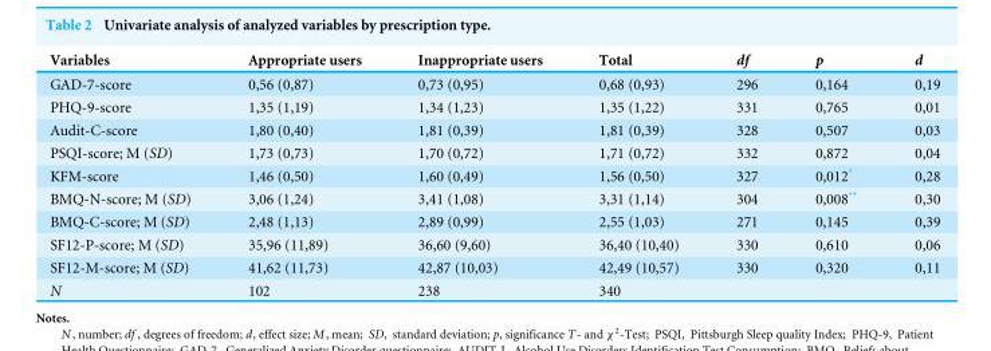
<table><thead><tr><td>Variables</td><td>Appropriate users</td><td>Inappropriate users</td><td>Total</td><td>df</td><td>p</td><td>d</td></tr></thead><tbody><tr><td>GAD-7-score</td><td>0,56 (0,87)</td><td>0,73 (0,95)</td><td>0,68 (0,93)</td><td>296</td><td>0,164</td><td>0,19</td></tr><tr><td>PHQ-9-score</td><td>1,35 (1,19)</td><td>1,34 (1,23)</td><td>1,35 (1,22)</td><td>331</td><td>0,765</td><td>0,01</td></tr><tr><td>Audit-C-score</td><td>1,80 (0,40)</td><td>1,81 (0,39)</td><td>1,81 (0,39)</td><td>328</td><td>0,507</td><td>0,03</td></tr><tr><td>PSQI-score; M (SD)</td><td>1,73 (0,73)</td><td>1,70 (0,72)</td><td>1,71 (0,72)</td><td>332</td><td>0,872</td><td>0,04</td></tr><tr><td>KFM-score</td><td>1,46 (0,50)</td><td>1,60 (0,49)</td><td>1,56 (0,50)</td><td>327</td><td>0,012*</td><td>0,28</td></tr><tr><td>BMQ-N-score; M (SD)</td><td>3,06 (1,24)</td><td>3,41 (1,08)</td><td>3,31 (1,14)</td><td>304</td><td>0,008**</td><td>0,30</td></tr><tr><td>BMQ-C-score; M (SD)</td><td>2,48 (1,13)</td><td>2,89 (0,99)</td><td>2,55 (1,03)</td><td>271</td><td>0,145</td><td>0,39</td></tr><tr><td>SF12-P-score; M (SD)</td><td>35,96 (11,89)</td><td>36,60 (9,60)</td><td>36,40 (10,40)</td><td>330</td><td>0,610</td><td>0,06</td></tr><tr><td>SF12-M-score; M (SD)</td><td>41,62 (11,73)</td><td>42,87 (10,03)</td><td>42,49 (10,57)</td><td>330</td><td>0,320</td><td>0,11</td></tr><tr><td>N</td><td>102</td><td>238</td><td>340</td><td></td><td></td><td></td></tr></tbody></table>